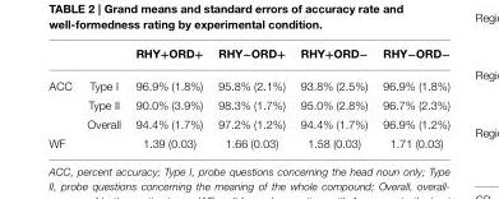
<table><thead><tr><td></td><td></td><td>RHY+ORD+</td><td>RHY−ORD+</td><td>RHY+ORD−</td><td>RHY−ORD−</td></tr></thead><tbody><tr><td rowspan="3">ACC</td><td>Type I</td><td>96.9% (1.8%)</td><td>95.8% (2.1%)</td><td>93.8% (2.5%)</td><td>96.9% (1.8%)</td></tr><tr><td>Type II</td><td>90.0% (3.9%)</td><td>98.3% (1.7%)</td><td>95.0% (2.8%)</td><td>96.7% (2.3%)</td></tr><tr><td>Overall</td><td>94.4% (1.7%)</td><td>97.2% (1.2%)</td><td>94.4% (1.7%)</td><td>96.9% (1.2%)</td></tr><tr><td>WF</td><td></td><td>1.39 (0.03)</td><td>1.66 (0.03)</td><td>1.58 (0.03)</td><td>1.71 (0.03)</td></tr></tbody></table>